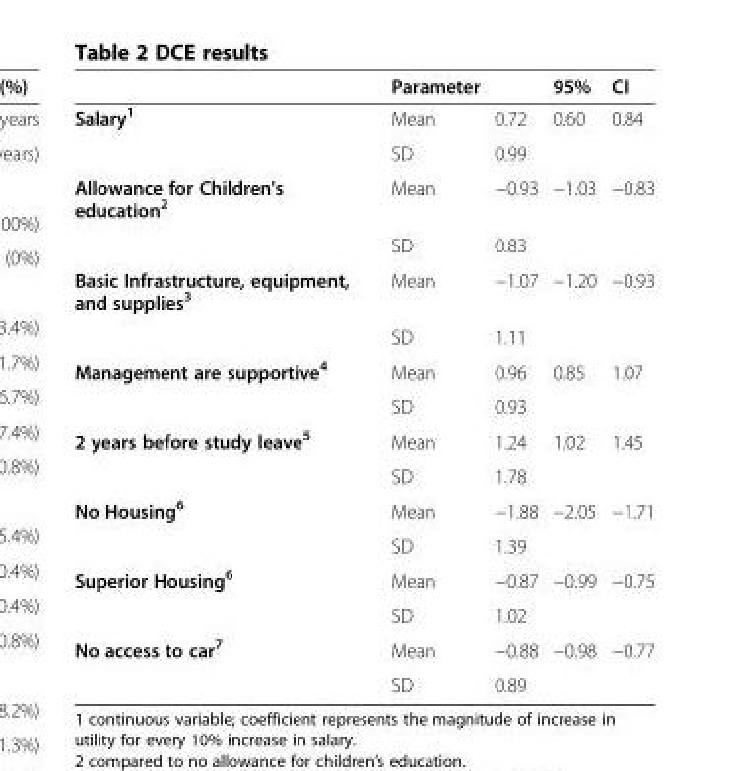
<table><thead><tr><td></td><td>Parameter</td><td></td><td>95%</td><td>CI</td></tr></thead><tbody><tr><td rowspan="2">Salary<sup>1</sup></td><td>Mean</td><td>0.72</td><td>0.60</td><td>0.84</td></tr><tr><td>SD</td><td>0.99</td><td></td><td></td></tr><tr><td rowspan="2">Allowance for Children&#x27;s education<sup>2</sup></td><td>Mean</td><td>−0.93</td><td>−1.03</td><td>−0.83</td></tr><tr><td>SD</td><td>0.83</td><td></td><td></td></tr><tr><td rowspan="2">Basic Infrastructure, equipment, and supplies<sup>3</sup></td><td>Mean</td><td>−1.07</td><td>−1.20</td><td>−0.93</td></tr><tr><td>SD</td><td>1.11</td><td></td><td></td></tr><tr><td rowspan="2">Management are supportive<sup>4</sup></td><td>Mean</td><td>0.96</td><td>0.85</td><td>1.07</td></tr><tr><td>SD</td><td>0.93</td><td></td><td></td></tr><tr><td rowspan="2">2 years before study leave<sup>5</sup></td><td>Mean</td><td>1.24</td><td>1.02</td><td>1.45</td></tr><tr><td>SD</td><td>1.78</td><td></td><td></td></tr><tr><td rowspan="2">No Housing<sup>6</sup></td><td>Mean</td><td>−1.88</td><td>−2.05</td><td>−1.71</td></tr><tr><td>SD</td><td>1.39</td><td></td><td></td></tr><tr><td rowspan="2">Superior Housing<sup>6</sup></td><td>Mean</td><td>−0.87</td><td>−0.99</td><td>−0.75</td></tr><tr><td>SD</td><td>1.02</td><td></td><td></td></tr><tr><td rowspan="2">No access to car<sup>7</sup></td><td>Mean</td><td>−0.88</td><td>−0.98</td><td>−0.77</td></tr><tr><td>SD</td><td>0.89</td><td></td><td></td></tr></tbody></table>